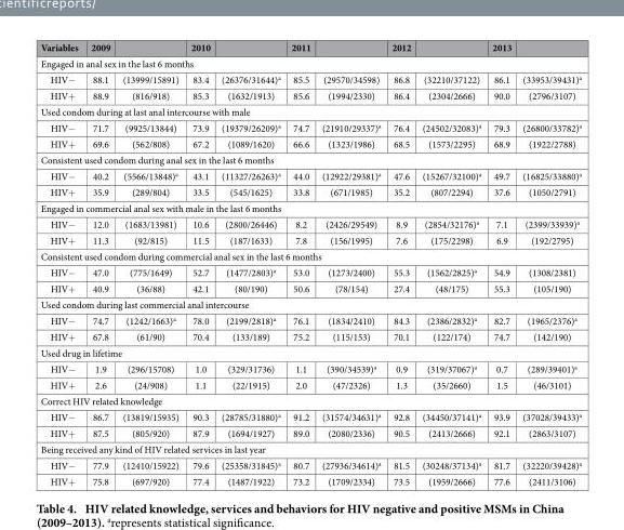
<table><thead><tr><td>Variables</td><td>2009</td><td></td><td>2010</td><td></td><td>2011</td><td></td><td>2012</td><td></td><td>2013</td><td></td></tr></thead><tbody><tr><td colspan="11">Engaged in anal sex in the last 6 months</td></tr><tr><td>HIV−</td><td>88.1</td><td>(13999/15891)</td><td>83.4</td><td>(26376/31644)<sup>a</sup></td><td>85.5</td><td>(29570/34598)</td><td>86.8</td><td>(32210/37122)</td><td>86.1</td><td>(33953/39431)<sup>a</sup></td></tr><tr><td>HIV+</td><td>88.9</td><td>(816/918)</td><td>85.3</td><td>(1632/1913)</td><td>85.6</td><td>(1994/2330)</td><td>86.4</td><td>(2304/2666)</td><td>90.0</td><td>(2796/3107)</td></tr><tr><td colspan="11">Used condom during at last anal intercourse with male</td></tr><tr><td>HIV−</td><td>71.7</td><td>(9925/13844)</td><td>73.9</td><td>(19379/26209)<sup>a</sup></td><td>74.7</td><td>(21910/29337)<sup>a</sup></td><td>76.4</td><td>(24502/32083)<sup>a</sup></td><td>79.3</td><td>(26800/33782)<sup>a</sup></td></tr><tr><td>HIV+</td><td>69.6</td><td>(562/808)</td><td>67.2</td><td>(1089/1620)</td><td>66.6</td><td>(1323/1986)</td><td>68.5</td><td>(1573/2295)</td><td>68.9</td><td>(1922/2788)</td></tr><tr><td colspan="11">Consistent used condom during anal sex in the last 6 months</td></tr><tr><td>HIV−</td><td>40.2</td><td>(5566/13848)<sup>a</sup></td><td>43.1</td><td>(11327/26263)<sup>a</sup></td><td>44.0</td><td>(12922/29381)<sup>a</sup></td><td>47.6</td><td>(15267/32100)<sup>a</sup></td><td>49.7</td><td>(16825/33880)<sup>a</sup></td></tr><tr><td>HIV+</td><td>35.9</td><td>(289/804)</td><td>33.5</td><td>(545/1625)</td><td>33.8</td><td>(671/1985)</td><td>35.2</td><td>(807/2294)</td><td>37.6</td><td>(1050/2791)</td></tr><tr><td colspan="11">Engaged in commercial anal sex with male in the last 6 months</td></tr><tr><td>HIV−</td><td>12.0</td><td>(1683/13981)</td><td>10.6</td><td>(2800/26446)</td><td>8.2</td><td>(2426/29549)</td><td>8.9</td><td>(2854/32176)<sup>a</sup></td><td>7.1</td><td>(2399/33939)<sup>a</sup></td></tr><tr><td>HIV+</td><td>11.3</td><td>(92/815)</td><td>11.5</td><td>(187/1633)</td><td>7.8</td><td>(156/1995)</td><td>7.6</td><td>(175/2298)</td><td>6.9</td><td>(192/2795)</td></tr><tr><td colspan="11">Consistent used condom during commercial anal sex in the last 6 months</td></tr><tr><td>HIV−</td><td>47.0</td><td>(775/1649)</td><td>52.7</td><td>(1477/2803)<sup>a</sup></td><td>53.0</td><td>(1273/2400)</td><td>55.3</td><td>(1562/2825)<sup>a</sup></td><td>54.9</td><td>(1308/2381)</td></tr><tr><td>HIV+</td><td>40.9</td><td>(36/88)</td><td>42.1</td><td>(80/190)</td><td>50.6</td><td>(78/154)</td><td>27.4</td><td>(48/175)</td><td>55.3</td><td>(105/190)</td></tr><tr><td colspan="11">Used condom during last commercial anal intercourse</td></tr><tr><td>HIV−</td><td>74.7</td><td>(1242/1663)<sup>a</sup></td><td>78.0</td><td>(2199/2818)<sup>a</sup></td><td>76.1</td><td>(1834/2410)</td><td>84.3</td><td>(2386/2832)<sup>a</sup></td><td>82.7</td><td>(1965/2376)<sup>a</sup></td></tr><tr><td>HIV+</td><td>67.8</td><td>(61/90)</td><td>70.4</td><td>(133/189)</td><td>75.2</td><td>(115/153)</td><td>70.1</td><td>(122/174)</td><td>74.7</td><td>(142/190)</td></tr><tr><td colspan="11">Used drug in lifetime</td></tr><tr><td>HIV−</td><td>1.9</td><td>(296/15708)</td><td>1.0</td><td>(329/31736)</td><td>1.1</td><td>(390/34539)<sup>a</sup></td><td>0.9</td><td>(319/37067)<sup>a</sup></td><td>0.7</td><td>(289/39401)<sup>a</sup></td></tr><tr><td>HIV+</td><td>2.6</td><td>(24/908)</td><td>1.1</td><td>(22/1915)</td><td>2.0</td><td>(47/2326)</td><td>1.3</td><td>(35/2660)</td><td>1.5</td><td>(46/3101)</td></tr><tr><td colspan="11">Correct HIV related knowledge</td></tr><tr><td>HIV−</td><td>86.7</td><td>(13819/15935)</td><td>90.3</td><td>(28785/31880)<sup>a</sup></td><td>91.2</td><td>(31574/34631)<sup>a</sup></td><td>92.8</td><td>(34450/37141)<sup>a</sup></td><td>93.9</td><td>(37028/39433)<sup>a</sup></td></tr><tr><td>HIV+</td><td>87.5</td><td>(805/920)</td><td>87.9</td><td>(1694/1927)</td><td>89.0</td><td>(2080/2336)</td><td>90.5</td><td>(2413/2666)</td><td>92.1</td><td>(2863/3107)</td></tr><tr><td colspan="11">Being received any kind of HIV related services in last year</td></tr><tr><td>HIV−</td><td>77.9</td><td>(12410/15922)</td><td>79.6</td><td>(25358/31845)<sup>a</sup></td><td>80.7</td><td>(27936/34614)<sup>a</sup></td><td>81.5</td><td>(30248/37134)<sup>a</sup></td><td>81.7</td><td>(32220/39428)<sup>a</sup></td></tr><tr><td>HIV+</td><td>75.8</td><td>(697/920)</td><td>77.4</td><td>(1487/1922)</td><td>73.2</td><td>(1709/2334)</td><td>73.5</td><td>(1959/2666)</td><td>77.6</td><td>(2411/3106)</td></tr></tbody></table>